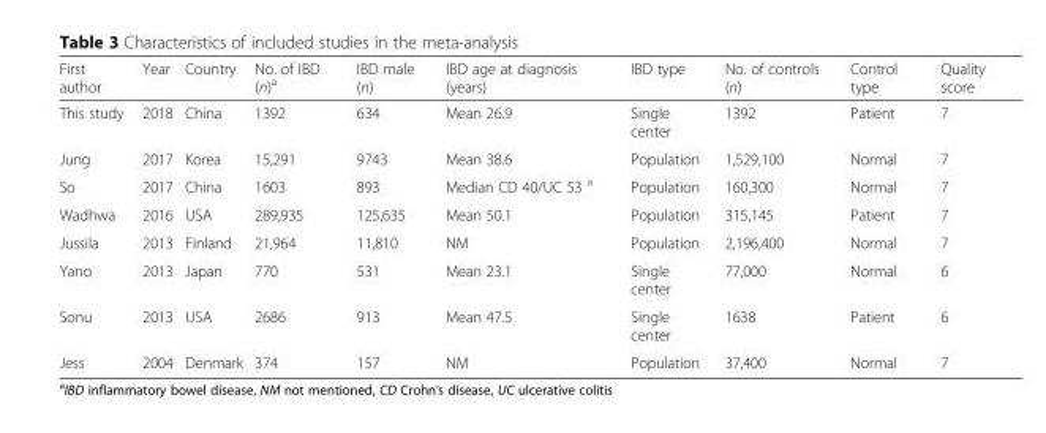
<table><thead><tr><td>First author</td><td>Year</td><td>Country</td><td>No. of IBD (n)<sup>a</sup></td><td>IBD male (n)</td><td>IBD age at diagnosis (years)</td><td>IBD type</td><td>No. of controls (n)</td><td>Control type</td><td>Quality score</td></tr></thead><tbody><tr><td>This study</td><td>2018</td><td>China</td><td>1392</td><td>634</td><td>Mean 26.9</td><td>Single center</td><td>1392</td><td>Patient</td><td>7</td></tr><tr><td>Jung</td><td>2017</td><td>Korea</td><td>15,291</td><td>9743</td><td>Mean 38.6</td><td>Population</td><td>1,529,100</td><td>Normal</td><td>7</td></tr><tr><td>So</td><td>2017</td><td>China</td><td>1603</td><td>893</td><td>Median CD 40/UC 53 <sup>a</sup></td><td>Population</td><td>160,300</td><td>Normal</td><td>7</td></tr><tr><td>Wadhwa</td><td>2016</td><td>USA</td><td>289,935</td><td>125,635</td><td>Mean 50.1</td><td>Population</td><td>315,145</td><td>Patient</td><td>7</td></tr><tr><td>Jussila</td><td>2013</td><td>Finland</td><td>21,964</td><td>11,810</td><td>NM</td><td>Population</td><td>2,196,400</td><td>Normal</td><td>7</td></tr><tr><td>Yano</td><td>2013</td><td>Japan</td><td>770</td><td>531</td><td>Mean 23.1</td><td>Single center</td><td>77,000</td><td>Normal</td><td>6</td></tr><tr><td>Sonu</td><td>2013</td><td>USA</td><td>2686</td><td>913</td><td>Mean 47.5</td><td>Single center</td><td>1638</td><td>Patient</td><td>6</td></tr><tr><td>Jess</td><td>2004</td><td>Denmark</td><td>374</td><td>157</td><td>NM</td><td>Population</td><td>37,400</td><td>Normal</td><td>7</td></tr></tbody></table>